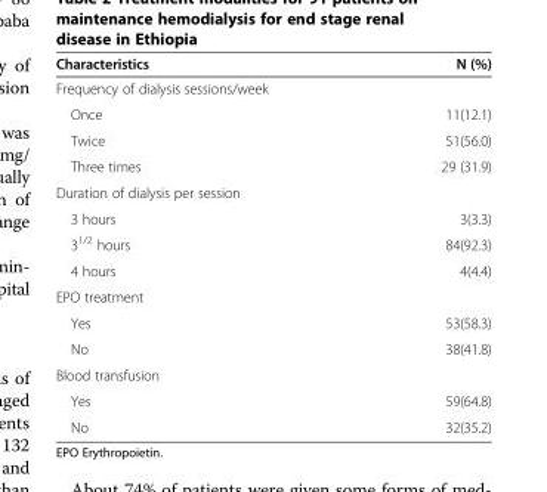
<table><thead><tr><td>Characteristics</td><td>N (%)</td></tr></thead><tbody><tr><td colspan="2">Frequency of dialysis sessions/week</td></tr><tr><td>Once</td><td>11(12.1)</td></tr><tr><td>Twice</td><td>51(56.0)</td></tr><tr><td>Three times</td><td>29 (31.9)</td></tr><tr><td colspan="2">Duration of dialysis per session</td></tr><tr><td>3 hours</td><td>3(3.3)</td></tr><tr><td>3<sup>1/2</sup> hours</td><td>84(92.3)</td></tr><tr><td>4 hours</td><td>4(4.4)</td></tr><tr><td colspan="2">EPO treatment</td></tr><tr><td>Yes</td><td>53(58.3)</td></tr><tr><td>No</td><td>38(41.8)</td></tr><tr><td colspan="2">Blood transfusion</td></tr><tr><td>Yes</td><td>59(64.8)</td></tr><tr><td>No</td><td>32(35.2)</td></tr></tbody></table>